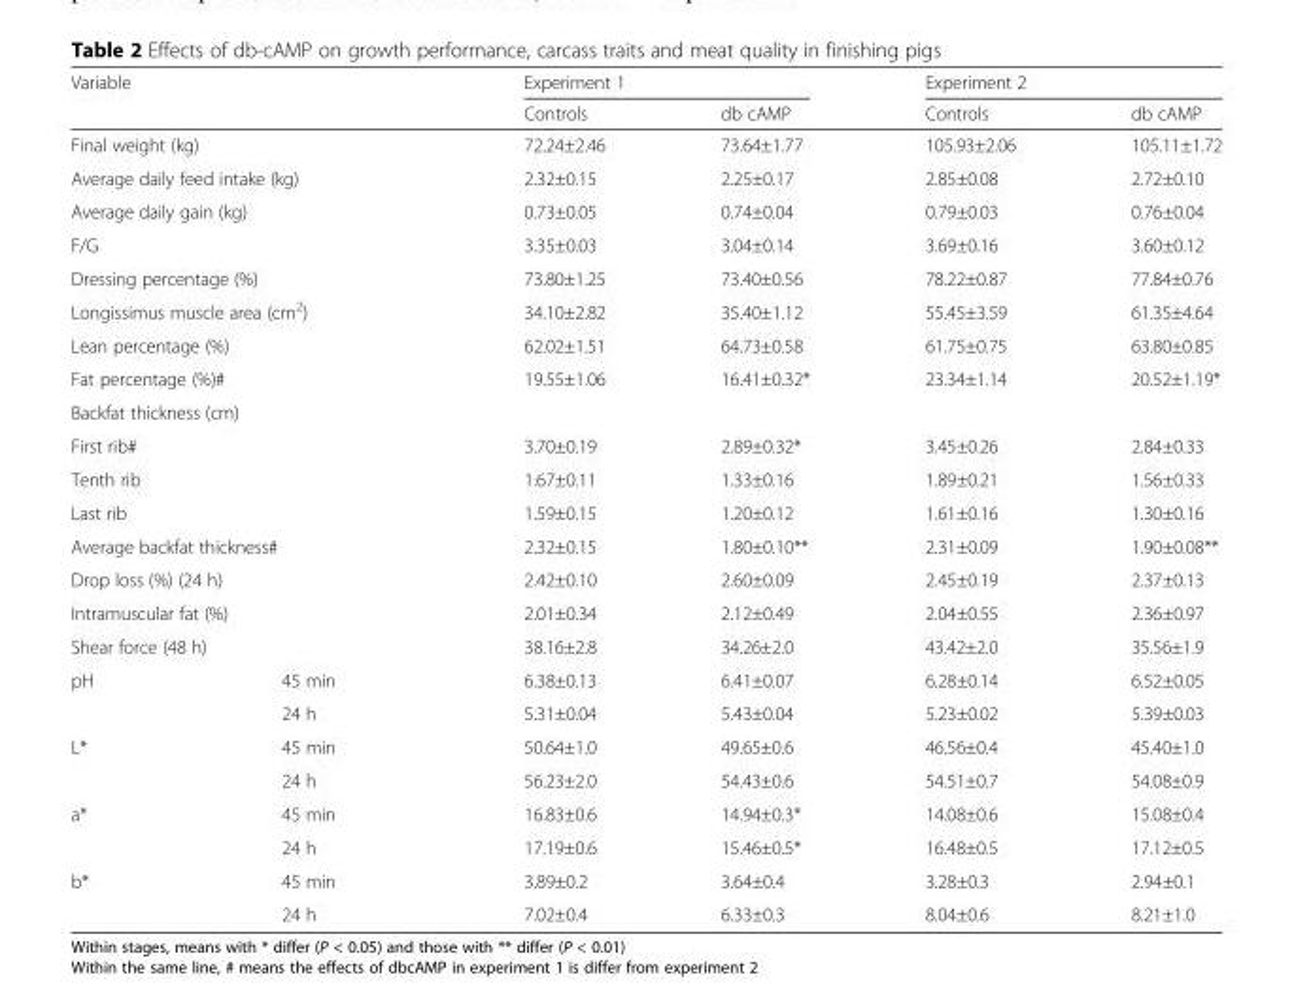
<table><thead><tr><td rowspan="2" colspan="2">Variable</td><td colspan="2">Experiment 1</td><td colspan="2">Experiment 2</td></tr><tr><td>Controls</td><td>db cAMP</td><td>Controls</td><td>db cAMP</td></tr></thead><tbody><tr><td colspan="2">Final weight (kg)</td><td>72.24±2.46</td><td>73.64±1.77</td><td>105.93±2.06</td><td>105.11±1.72</td></tr><tr><td colspan="2">Average daily feed intake (kg)</td><td>2.32±0.15</td><td>2.25±0.17</td><td>2.85±0.08</td><td>2.72±0.10</td></tr><tr><td colspan="2">Average daily gain (kg)</td><td>0.73±0.05</td><td>0.74±0.04</td><td>0.79±0.03</td><td>0.76±0.04</td></tr><tr><td colspan="2">F/G</td><td>3.35±0.03</td><td>3.04±0.14</td><td>3.69±0.16</td><td>3.60±0.12</td></tr><tr><td colspan="2">Dressing percentage (%)</td><td>73.80±1.25</td><td>73.40±0.56</td><td>78.22±0.87</td><td>77.84±0.76</td></tr><tr><td colspan="2">Longissimus muscle area (cm<sup>2</sup>)</td><td>34.10±2.82</td><td>35.40±1.12</td><td>55.45±3.59</td><td>61.35±4.64</td></tr><tr><td colspan="2">Lean percentage (%)</td><td>62.02±1.51</td><td>64.73±0.58</td><td>61.75±0.75</td><td>63.80±0.85</td></tr><tr><td colspan="2">Fat percentage (%)#</td><td>19.55±1.06</td><td>16.41±0.32*</td><td>23.34±1.14</td><td>20.52±1.19*</td></tr><tr><td colspan="6">Backfat thickness (cm)</td></tr><tr><td colspan="2">First rib#</td><td>3.70±0.19</td><td>2.89±0.32*</td><td>3.45±0.26</td><td>2.84±0.33</td></tr><tr><td colspan="2">Tenth rib</td><td>1.67±0.11</td><td>1.33±0.16</td><td>1.89±0.21</td><td>1.56±0.33</td></tr><tr><td colspan="2">Last rib</td><td>1.59±0.15</td><td>1.20±0.12</td><td>1.61±0.16</td><td>1.30±0.16</td></tr><tr><td colspan="2">Average backfat thickness#</td><td>2.32±0.15</td><td>1.80±0.10**</td><td>2.31±0.09</td><td>1.90±0.08**</td></tr><tr><td colspan="2">Drop loss (%) (24 h)</td><td>2.42±0.10</td><td>2.60±0.09</td><td>2.45±0.19</td><td>2.37±0.13</td></tr><tr><td colspan="2">Intramuscular fat (%)</td><td>2.01±0.34</td><td>2.12±0.49</td><td>2.04±0.55</td><td>2.36±0.97</td></tr><tr><td colspan="2">Shear force (48 h)</td><td>38.16±2.8</td><td>34.26±2.0</td><td>43.42±2.0</td><td>35.56±1.9</td></tr><tr><td rowspan="2">pH</td><td>45 min</td><td>6.38±0.13</td><td>6.41±0.07</td><td>6.28±0.14</td><td>6.52±0.05</td></tr><tr><td>24 h</td><td>5.31±0.04</td><td>5.43±0.04</td><td>5.23±0.02</td><td>5.39±0.03</td></tr><tr><td rowspan="2">L*</td><td>45 min</td><td>50.64±1.0</td><td>49.65±0.6</td><td>46.56±0.4</td><td>45.40±1.0</td></tr><tr><td>24 h</td><td>56.23±2.0</td><td>54.43±0.6</td><td>54.51±0.7</td><td>54.08±0.9</td></tr><tr><td rowspan="2">a*</td><td>45 min</td><td>16.83±0.6</td><td>14.94±0.3*</td><td>14.08±0.6</td><td>15.08±0.4</td></tr><tr><td>24 h</td><td>17.19±0.6</td><td>15.46±0.5*</td><td>16.48±0.5</td><td>17.12±0.5</td></tr><tr><td rowspan="2">b*</td><td>45 min</td><td>3.89±0.2</td><td>3.64±0.4</td><td>3.28±0.3</td><td>2.94±0.1</td></tr><tr><td>24 h</td><td>7.02±0.4</td><td>6.33±0.3</td><td>8.04±0.6</td><td>8.21±1.0</td></tr></tbody></table>